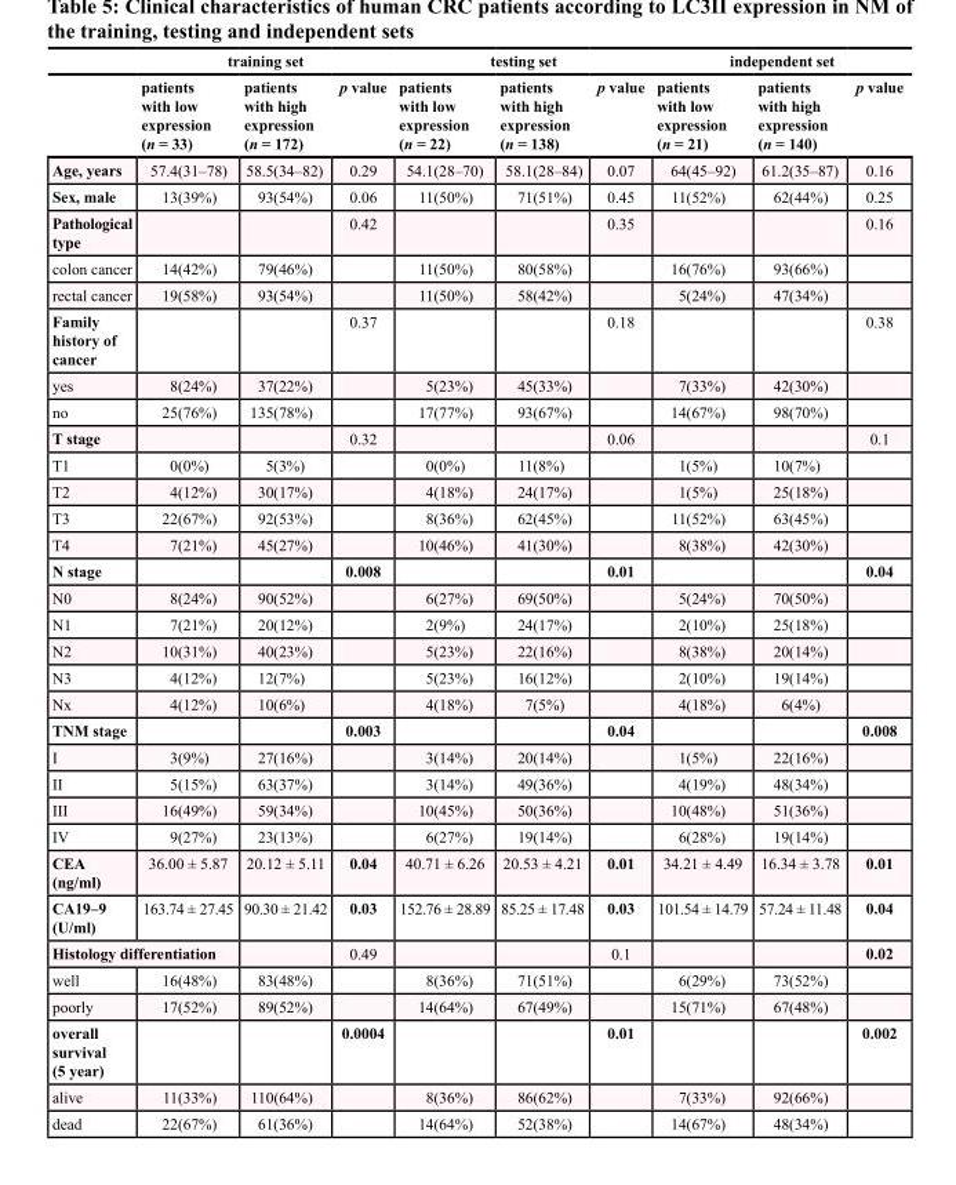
<table><thead><tr><td rowspan="2"></td><td colspan="3">training set</td><td colspan="3">testing set</td><td colspan="3">independent set</td></tr><tr><td>patients with low expression (n = 33)</td><td>patients with high expression (n = 172)</td><td>p value</td><td>patients with low expression (n = 22)</td><td>patients with high expression (n = 138)</td><td>p value</td><td>patients with low expression (n = 21)</td><td>patients with high expression (n = 140)</td><td>p value</td></tr></thead><tbody><tr><td>Age, years</td><td>57.4(31–78)</td><td>58.5(34–82)</td><td>0.29</td><td>54.1(28–70)</td><td>58.1(28–84)</td><td>0.07</td><td>64(45–92)</td><td>61.2(35–87)</td><td>0.16</td></tr><tr><td>Sex, male</td><td>13(39%)</td><td>93(54%)</td><td>0.06</td><td>11(50%)</td><td>71(51%)</td><td>0.45</td><td>11(52%)</td><td>62(44%)</td><td>0.25</td></tr><tr><td>Pathological type</td><td></td><td></td><td>0.42</td><td></td><td></td><td>0.35</td><td></td><td></td><td>0.16</td></tr><tr><td>colon cancer</td><td>14(42%)</td><td>79(46%)</td><td></td><td>11(50%)</td><td>80(58%)</td><td></td><td>16(76%)</td><td>93(66%)</td><td></td></tr><tr><td>rectal cancer</td><td>19(58%)</td><td>93(54%)</td><td></td><td>11(50%)</td><td>58(42%)</td><td></td><td>5(24%)</td><td>47(34%)</td><td></td></tr><tr><td>Family history of cancer</td><td></td><td></td><td>0.37</td><td></td><td></td><td>0.18</td><td></td><td></td><td>0.38</td></tr><tr><td>yes</td><td>8(24%)</td><td>37(22%)</td><td></td><td>5(23%)</td><td>45(33%)</td><td></td><td>7(33%)</td><td>42(30%)</td><td></td></tr><tr><td>no</td><td>25(76%)</td><td>135(78%)</td><td></td><td>17(77%)</td><td>93(67%)</td><td></td><td>14(67%)</td><td>98(70%)</td><td></td></tr><tr><td>T stage</td><td></td><td></td><td>0.32</td><td></td><td></td><td>0.06</td><td></td><td></td><td>0.1</td></tr><tr><td>T1</td><td>0(0%)</td><td>5(3%)</td><td></td><td>0(0%)</td><td>11(8%)</td><td></td><td>1(5%)</td><td>10(7%)</td><td></td></tr><tr><td>T2</td><td>4(12%)</td><td>30(17%)</td><td></td><td>4(18%)</td><td>24(17%)</td><td></td><td>1(5%)</td><td>25(18%)</td><td></td></tr><tr><td>T3</td><td>22(67%)</td><td>92(53%)</td><td></td><td>8(36%)</td><td>62(45%)</td><td></td><td>11(52%)</td><td>63(45%)</td><td></td></tr><tr><td>T4</td><td>7(21%)</td><td>45(27%)</td><td></td><td>10(46%)</td><td>41(30%)</td><td></td><td>8(38%)</td><td>42(30%)</td><td></td></tr><tr><td>N stage</td><td></td><td></td><td>0.008</td><td></td><td></td><td>0.01</td><td></td><td></td><td>0.04</td></tr><tr><td>N0</td><td>8(24%)</td><td>90(52%)</td><td></td><td>6(27%)</td><td>69(50%)</td><td></td><td>5(24%)</td><td>70(50%)</td><td></td></tr><tr><td>N1</td><td>7(21%)</td><td>20(12%)</td><td></td><td>2(9%)</td><td>24(17%)</td><td></td><td>2(10%)</td><td>25(18%)</td><td></td></tr><tr><td>N2</td><td>10(31%)</td><td>40(23%)</td><td></td><td>5(23%)</td><td>22(16%)</td><td></td><td>8(38%)</td><td>20(14%)</td><td></td></tr><tr><td>N3</td><td>4(12%)</td><td>12(7%)</td><td></td><td>5(23%)</td><td>16(12%)</td><td></td><td>2(10%)</td><td>19(14%)</td><td></td></tr><tr><td>Nx</td><td>4(12%)</td><td>10(6%)</td><td></td><td>4(18%)</td><td>7(5%)</td><td></td><td>4(18%)</td><td>6(4%)</td><td></td></tr><tr><td>TNM stage</td><td></td><td></td><td>0.003</td><td></td><td></td><td>0.04</td><td></td><td></td><td>0.008</td></tr><tr><td>I</td><td>3(9%)</td><td>27(16%)</td><td></td><td>3(14%)</td><td>20(14%)</td><td></td><td>1(5%)</td><td>22(16%)</td><td></td></tr><tr><td>II</td><td>5(15%)</td><td>63(37%)</td><td></td><td>3(14%)</td><td>49(36%)</td><td></td><td>4(19%)</td><td>48(34%)</td><td></td></tr><tr><td>III</td><td>16(49%)</td><td>59(34%)</td><td></td><td>10(45%)</td><td>50(36%)</td><td></td><td>10(48%)</td><td>51(36%)</td><td></td></tr><tr><td>IV</td><td>9(27%)</td><td>23(13%)</td><td></td><td>6(27%)</td><td>19(14%)</td><td></td><td>6(28%)</td><td>19(14%)</td><td></td></tr><tr><td>CEA (ng/ml)</td><td>36.00 ± 5.87</td><td>20.12 ± 5.11</td><td>0.04</td><td>40.71 ± 6.26</td><td>20.53 ± 4.21</td><td>0.01</td><td>34.21 ± 4.49</td><td>16.34 ± 3.78</td><td>0.01</td></tr><tr><td>CA19–9 (U/ml)</td><td>163.74 ± 27.45</td><td>90.30 ± 21.42</td><td>0.03</td><td>152.76 ± 28.89</td><td>85.25 ± 17.48</td><td>0.03</td><td>101.54 ± 14.79</td><td>57.24 ± 11.48</td><td>0.04</td></tr><tr><td colspan="2">Histology differentiation</td><td></td><td>0.49</td><td></td><td></td><td>0.1</td><td></td><td></td><td>0.02</td></tr><tr><td>well</td><td>16(48%)</td><td>83(48%)</td><td></td><td>8(36%)</td><td>71(51%)</td><td></td><td>6(29%)</td><td>73(52%)</td><td></td></tr><tr><td>poorly</td><td>17(52%)</td><td>89(52%)</td><td></td><td>14(64%)</td><td>67(49%)</td><td></td><td>15(71%)</td><td>67(48%)</td><td></td></tr><tr><td>overall survival (5 year)</td><td></td><td></td><td>0.0004</td><td></td><td></td><td>0.01</td><td></td><td></td><td>0.002</td></tr><tr><td>alive</td><td>11(33%)</td><td>110(64%)</td><td></td><td>8(36%)</td><td>86(62%)</td><td></td><td>7(33%)</td><td>92(66%)</td><td></td></tr><tr><td>dead</td><td>22(67%)</td><td>61(36%)</td><td></td><td>14(64%)</td><td>52(38%)</td><td></td><td>14(67%)</td><td>48(34%)</td><td></td></tr></tbody></table>